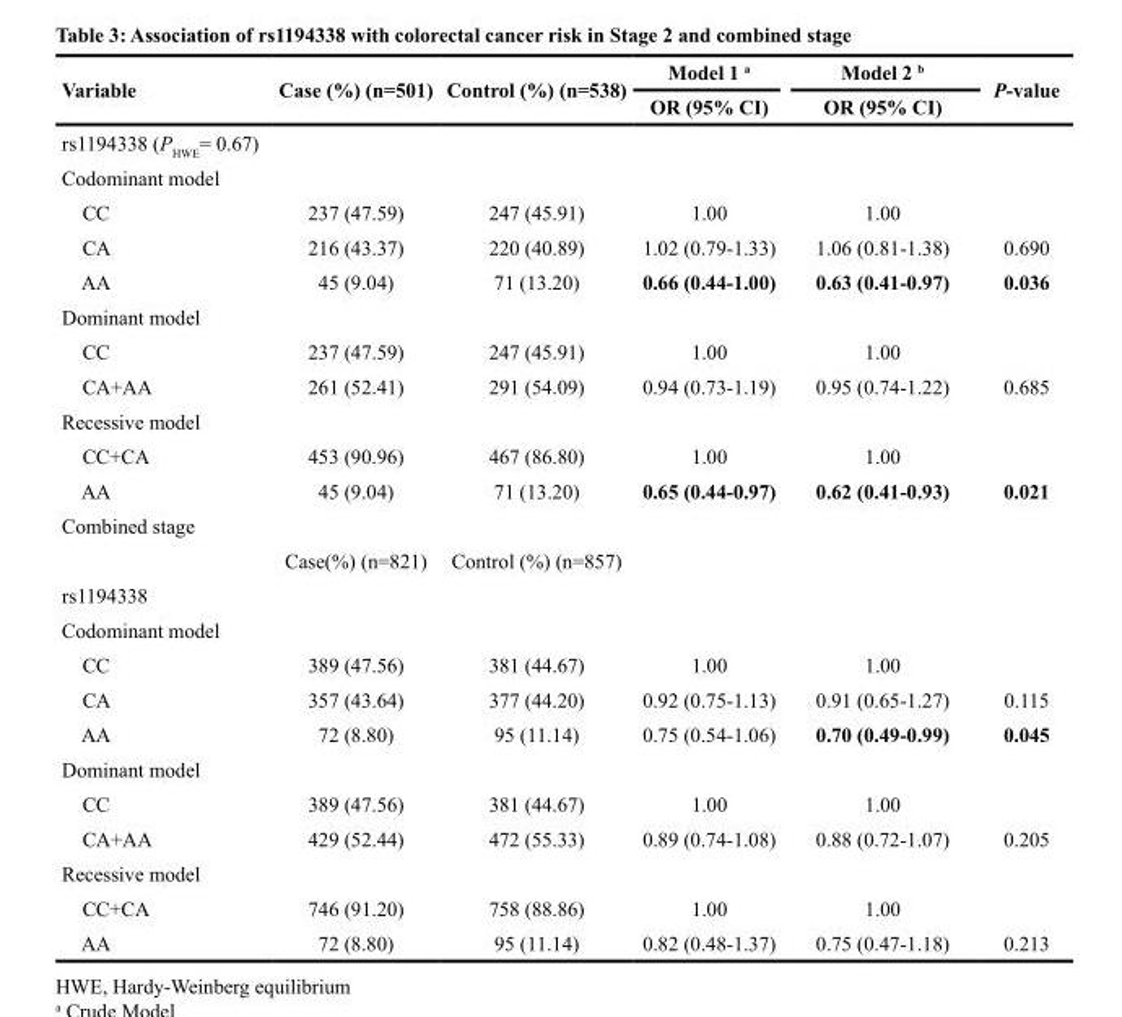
<table><thead><tr><td rowspan="2">Variable</td><td rowspan="2">Case (%) (n=501)</td><td rowspan="2">Control (%) (n=538)</td><td rowspan="2">Model 1 <sup>a</sup> OR (95% CI)</td><td rowspan="2">Model 2 <sup>b</sup> OR (95% CI)</td><td rowspan="2">P-value</td></tr><tr></tr></thead><tbody><tr><td colspan="6">rs1194338 (P<sub>HWE</sub>= 0.67)</td></tr><tr><td colspan="6">Codominant model</td></tr><tr><td>CC</td><td>237 (47.59)</td><td>247 (45.91)</td><td>1.00</td><td>1.00</td><td></td></tr><tr><td>CA</td><td>216 (43.37)</td><td>220 (40.89)</td><td>1.02 (0.79-1.33)</td><td>1.06 (0.81-1.38)</td><td>0.690</td></tr><tr><td>AA</td><td>45 (9.04)</td><td>71 (13.20)</td><td>0.66 (0.44-1.00)</td><td>0.63 (0.41-0.97)</td><td>0.036</td></tr><tr><td colspan="6">Dominant model</td></tr><tr><td>CC</td><td>237 (47.59)</td><td>247 (45.91)</td><td>1.00</td><td>1.00</td><td></td></tr><tr><td>CA+AA</td><td>261 (52.41)</td><td>291 (54.09)</td><td>0.94 (0.73-1.19)</td><td>0.95 (0.74-1.22)</td><td>0.685</td></tr><tr><td colspan="6">Recessive model</td></tr><tr><td>CC+CA</td><td>453 (90.96)</td><td>467 (86.80)</td><td>1.00</td><td>1.00</td><td></td></tr><tr><td>AA</td><td>45 (9.04)</td><td>71 (13.20)</td><td>0.65 (0.44-0.97)</td><td>0.62 (0.41-0.93)</td><td>0.021</td></tr><tr><td colspan="6">Combined stage</td></tr><tr><td></td><td>Case(%) (n=821)</td><td>Control (%) (n=857)</td><td></td><td></td><td></td></tr><tr><td colspan="6">rs1194338</td></tr><tr><td colspan="6">Codominant model</td></tr><tr><td>CC</td><td>389 (47.56)</td><td>381 (44.67)</td><td>1.00</td><td>1.00</td><td></td></tr><tr><td>CA</td><td>357 (43.64)</td><td>377 (44.20)</td><td>0.92 (0.75-1.13)</td><td>0.91 (0.65-1.27)</td><td>0.115</td></tr><tr><td>AA</td><td>72 (8.80)</td><td>95 (11.14)</td><td>0.75 (0.54-1.06)</td><td>0.70 (0.49-0.99)</td><td>0.045</td></tr><tr><td colspan="6">Dominant model</td></tr><tr><td>CC</td><td>389 (47.56)</td><td>381 (44.67)</td><td>1.00</td><td>1.00</td><td></td></tr><tr><td>CA+AA</td><td>429 (52.44)</td><td>472 (55.33)</td><td>0.89 (0.74-1.08)</td><td>0.88 (0.72-1.07)</td><td>0.205</td></tr><tr><td colspan="6">Recessive model</td></tr><tr><td>CC+CA</td><td>746 (91.20)</td><td>758 (88.86)</td><td>1.00</td><td>1.00</td><td></td></tr><tr><td>AA</td><td>72 (8.80)</td><td>95 (11.14)</td><td>0.82 (0.48-1.37)</td><td>0.75 (0.47-1.18)</td><td>0.213</td></tr></tbody></table>